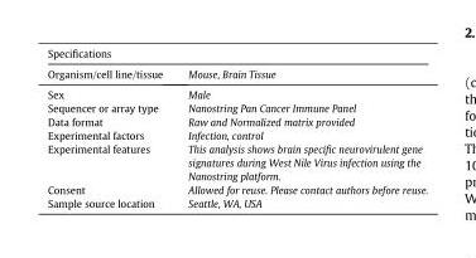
<table><thead><tr><td colspan="2">Specifications</td></tr><tr><td>Organism/cell line/tissue</td><td>Mouse, Brain Tissue</td></tr></thead><tbody><tr><td>Sex</td><td>Male</td></tr><tr><td>Sequencer or array type</td><td>Nanostring Pan Cancer Immune Panel</td></tr><tr><td>Data format</td><td>Raw and Normalized matrix provided</td></tr><tr><td>Experimental factors</td><td>Infection, control</td></tr><tr><td>Experimental features</td><td>This analysis shows brain specific neurovirulent gene signatures during West Nile Virus infection using the Nanostring platform.</td></tr><tr><td>Consent</td><td>Allowed for reuse. Please contact authors before reuse.</td></tr><tr><td>Sample source location</td><td>Seattle, WA, USA</td></tr></tbody></table>